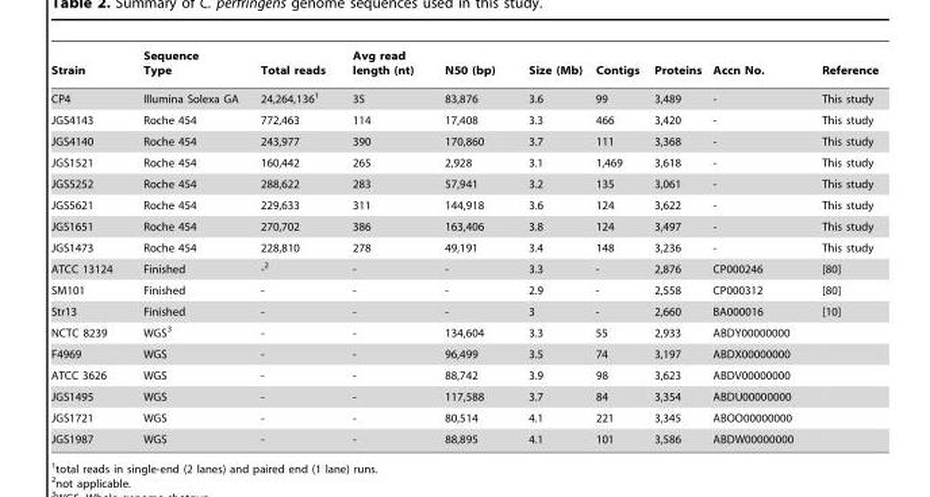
<table><thead><tr><td>Strain</td><td>Sequence Type</td><td>Total reads</td><td>Avg read length (nt)</td><td>N50 (bp)</td><td>Size (Mb)</td><td>Contigs</td><td>Proteins</td><td>Accn No.</td><td>Reference</td></tr></thead><tbody><tr><td>CP4</td><td>Illumina Solexa GA</td><td>24,264,136<sup>1</sup></td><td>35</td><td>83,876</td><td>3.6</td><td>99</td><td>3,489</td><td>-</td><td>This study</td></tr><tr><td>JGS4143</td><td>Roche 454</td><td>772,463</td><td>114</td><td>17,408</td><td>3.3</td><td>466</td><td>3,420</td><td>-</td><td>This study</td></tr><tr><td>JGS4140</td><td>Roche 454</td><td>243,977</td><td>390</td><td>170,860</td><td>3.7</td><td>111</td><td>3,368</td><td>-</td><td>This study</td></tr><tr><td>JGS1521</td><td>Roche 454</td><td>160,442</td><td>265</td><td>2,928</td><td>3.1</td><td>1,469</td><td>3,618</td><td>-</td><td>This study</td></tr><tr><td>JGS5252</td><td>Roche 454</td><td>288,622</td><td>283</td><td>57,941</td><td>3.2</td><td>135</td><td>3,061</td><td>-</td><td>This study</td></tr><tr><td>JGS5621</td><td>Roche 454</td><td>229,633</td><td>311</td><td>144,918</td><td>3.6</td><td>124</td><td>3,622</td><td>-</td><td>This study</td></tr><tr><td>JGS1651</td><td>Roche 454</td><td>270,702</td><td>386</td><td>163,406</td><td>3.8</td><td>124</td><td>3,497</td><td>-</td><td>This study</td></tr><tr><td>JGS1473</td><td>Roche 454</td><td>228,810</td><td>278</td><td>49,191</td><td>3.4</td><td>148</td><td>3,236</td><td>-</td><td>This study</td></tr><tr><td>ATCC 13124</td><td>Finished</td><td>-2</td><td>-</td><td>-</td><td>3.3</td><td>-</td><td>2,876</td><td>CP000246</td><td>[80]</td></tr><tr><td>SM101</td><td>Finished</td><td>-</td><td>-</td><td>-</td><td>2.9</td><td>-</td><td>2,558</td><td>CP000312</td><td>[80]</td></tr><tr><td>Str13</td><td>Finished</td><td>-</td><td>-</td><td>-</td><td>3</td><td>-</td><td>2,660</td><td>BA000016</td><td>[10]</td></tr><tr><td>NCTC 8239</td><td>WGS<sup>3</sup></td><td>-</td><td>-</td><td>134,604</td><td>3.3</td><td>55</td><td>2,933</td><td>ABDY00000000</td><td></td></tr><tr><td>F4969</td><td>WGS</td><td>-</td><td>-</td><td>96,499</td><td>3.5</td><td>74</td><td>3,197</td><td>ABDX00000000</td><td></td></tr><tr><td>ATCC 3626</td><td>WGS</td><td>-</td><td>-</td><td>88,742</td><td>3.9</td><td>98</td><td>3,623</td><td>ABDV00000000</td><td></td></tr><tr><td>JGS1495</td><td>WGS</td><td>-</td><td>-</td><td>117,588</td><td>3.7</td><td>84</td><td>3,354</td><td>ABDU00000000</td><td></td></tr><tr><td>JGS1721</td><td>WGS</td><td>-</td><td>-</td><td>80,514</td><td>4.1</td><td>221</td><td>3,345</td><td>ABOO00000000</td><td></td></tr><tr><td>JGS1987</td><td>WGS</td><td>-</td><td>-</td><td>88,895</td><td>4.1</td><td>101</td><td>3,586</td><td>ABDW00000000</td><td></td></tr></tbody></table>